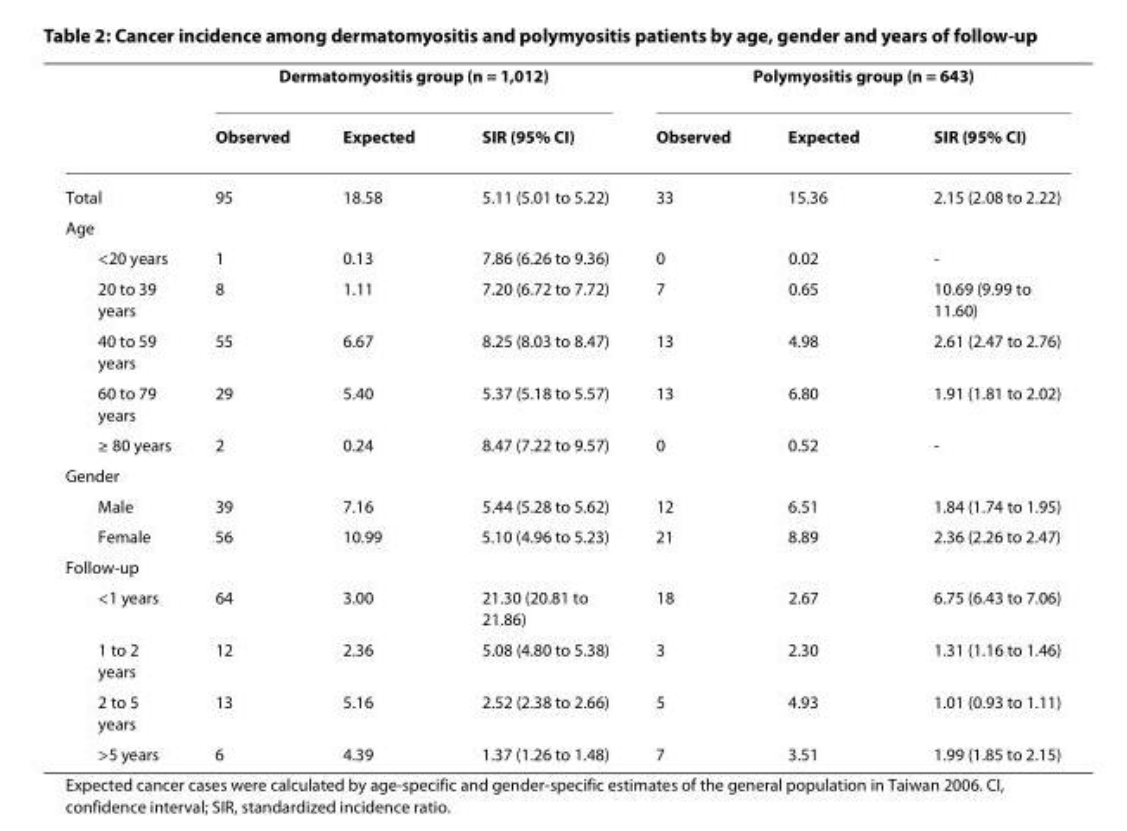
<table><thead><tr><td rowspan="2"></td><td colspan="3">Dermatomyositis group (n = 1,012)</td><td colspan="3">Polymyositis group (n = 643)</td></tr><tr><td>Observed</td><td>Expected</td><td>SIR (95% CI)</td><td>Observed</td><td>Expected</td><td>SIR (95% CI)</td></tr></thead><tbody><tr><td>Total</td><td>95</td><td>18.58</td><td>5.11 (5.01 to 5.22)</td><td>33</td><td>15.36</td><td>2.15 (2.08 to 2.22)</td></tr><tr><td colspan="7">Age</td></tr><tr><td>&lt;20 years</td><td>1</td><td>0.13</td><td>7.86 (6.26 to 9.36)</td><td>0</td><td>0.02</td><td>-</td></tr><tr><td>20 to 39 years</td><td>8</td><td>1.11</td><td>7.20 (6.72 to 7.72)</td><td>7</td><td>0.65</td><td>10.69 (9.99 to 11.60)</td></tr><tr><td>40 to 59 years</td><td>55</td><td>6.67</td><td>8.25 (8.03 to 8.47)</td><td>13</td><td>4.98</td><td>2.61 (2.47 to 2.76)</td></tr><tr><td>60 to 79 years</td><td>29</td><td>5.40</td><td>5.37 (5.18 to 5.57)</td><td>13</td><td>6.80</td><td>1.91 (1.81 to 2.02)</td></tr><tr><td>≥ 80 years</td><td>2</td><td>0.24</td><td>8.47 (7.22 to 9.57)</td><td>0</td><td>0.52</td><td>-</td></tr><tr><td colspan="7">Gender</td></tr><tr><td>Male</td><td>39</td><td>7.16</td><td>5.44 (5.28 to 5.62)</td><td>12</td><td>6.51</td><td>1.84 (1.74 to 1.95)</td></tr><tr><td>Female</td><td>56</td><td>10.99</td><td>5.10 (4.96 to 5.23)</td><td>21</td><td>8.89</td><td>2.36 (2.26 to 2.47)</td></tr><tr><td colspan="7">Follow-up</td></tr><tr><td>&lt;1 years</td><td>64</td><td>3.00</td><td>21.30 (20.81 to 21.86)</td><td>18</td><td>2.67</td><td>6.75 (6.43 to 7.06)</td></tr><tr><td>1 to 2 years</td><td>12</td><td>2.36</td><td>5.08 (4.80 to 5.38)</td><td>3</td><td>2.30</td><td>1.31 (1.16 to 1.46)</td></tr><tr><td>2 to 5 years</td><td>13</td><td>5.16</td><td>2.52 (2.38 to 2.66)</td><td>5</td><td>4.93</td><td>1.01 (0.93 to 1.11)</td></tr><tr><td>&gt;5 years</td><td>6</td><td>4.39</td><td>1.37 (1.26 to 1.48)</td><td>7</td><td>3.51</td><td>1.99 (1.85 to 2.15)</td></tr></tbody></table>